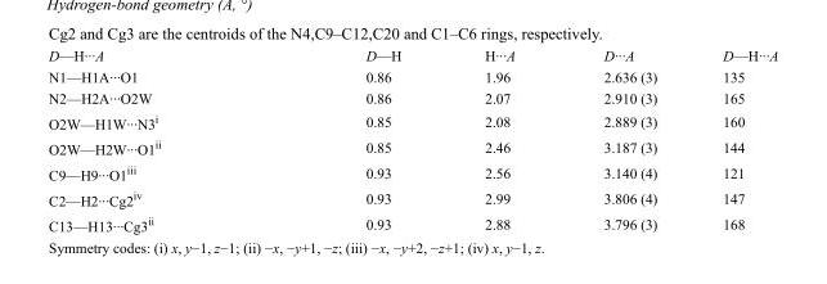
<table><tbody><tr><td>D—H···A</td><td>D—H</td><td>H···A</td><td>D···A</td><td>D—H···A</td></tr><tr><td>N1—H1A···O1</td><td>0.86</td><td>1.96</td><td>2.636 (3)</td><td>135</td></tr><tr><td>N2—H2A···O2W</td><td>0.86</td><td>2.07</td><td>2.910 (3)</td><td>165</td></tr><tr><td>O2W—H1W···N3<sup>i</sup></td><td>0.85</td><td>2.08</td><td>2.889 (3)</td><td>160</td></tr><tr><td>O2W—H2W···O1<sup>ii</sup></td><td>0.85</td><td>2.46</td><td>3.187 (3)</td><td>144</td></tr><tr><td>C9—H9···O1<sup>iii</sup></td><td>0.93</td><td>2.56</td><td>3.140 (4)</td><td>121</td></tr><tr><td>C2—H2···Cg2<sup>iv</sup></td><td>0.93</td><td>2.99</td><td>3.806 (4)</td><td>147</td></tr><tr><td>C13—H13···Cg3<sup>ii</sup></td><td>0.93</td><td>2.88</td><td>3.796 (3)</td><td>168</td></tr></tbody></table>